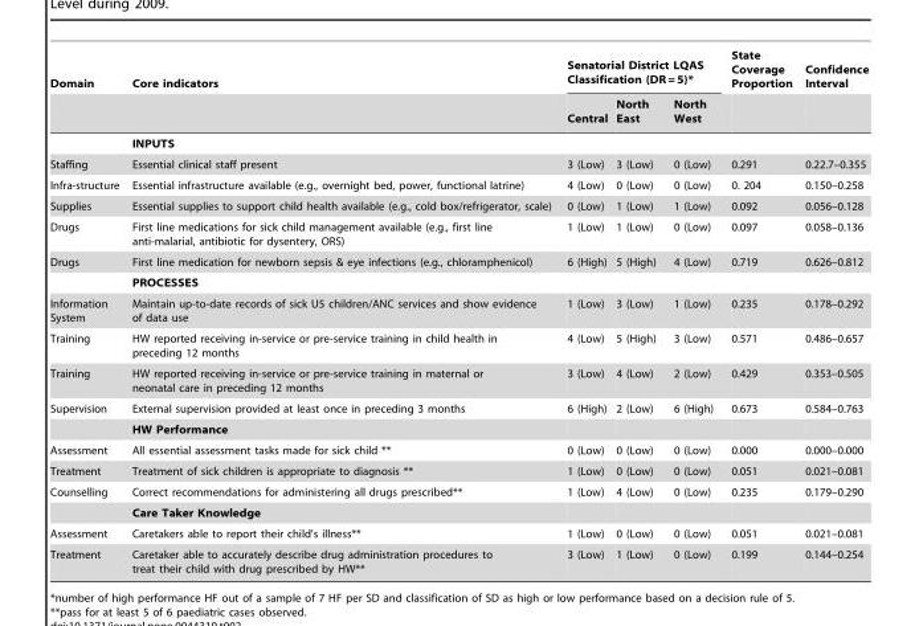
<table><thead><tr><td rowspan="2">Domain</td><td rowspan="2">Core indicators</td><td colspan="3">Senatorial District LQAS Classification (DR = 5)*</td><td rowspan="2">State Coverage Proportion</td><td rowspan="2">Confidence Interval</td></tr><tr><td>Central</td><td>North East</td><td>North West</td></tr></thead><tbody><tr><td></td><td>INPUTS</td><td></td><td></td><td></td><td></td><td></td></tr><tr><td>Staffing</td><td>Essential clinical staff present</td><td>3 (Low)</td><td>3 (Low)</td><td>0 (Low)</td><td>0.291</td><td>0.22.7–0.355</td></tr><tr><td>Infra-structure</td><td>Essential infrastructure available (e.g., overnight bed, power, functional latrine)</td><td>4 (Low)</td><td>0 (Low)</td><td>0 (Low)</td><td>0. 204</td><td>0.150–0.258</td></tr><tr><td>Supplies</td><td>Essential supplies to support child health available (e.g., cold box/refrigerator, scale)</td><td>0 (Low)</td><td>1 (Low)</td><td>1 (Low)</td><td>0.092</td><td>0.056–0.128</td></tr><tr><td>Drugs</td><td>First line medications for sick child management available (e.g., first line anti-malarial, antibiotic for dysentery, ORS)</td><td>1 (Low)</td><td>1 (Low)</td><td>0 (Low)</td><td>0.097</td><td>0.058–0.136</td></tr><tr><td rowspan="2">Drugs</td><td>First line medication for newborn sepsis &amp; eye infections (e.g., chloramphenicol)</td><td>6 (High)</td><td>5 (High)</td><td>4 (Low)</td><td>0.719</td><td>0.626–0.812</td></tr><tr><td>PROCESSES</td><td></td><td></td><td></td><td></td><td></td></tr><tr><td>Information System</td><td>Maintain up-to-date records of sick U5 children/ANC services and show evidence of data use</td><td>1 (Low)</td><td>3 (Low)</td><td>1 (Low)</td><td>0.235</td><td>0.178–0.292</td></tr><tr><td>Training</td><td>HW reported receiving in-service or pre-service training in child health in preceding 12 months</td><td>4 (Low)</td><td>5 (High)</td><td>3 (Low)</td><td>0.571</td><td>0.486–0.657</td></tr><tr><td>Training</td><td>HW reported receiving in-service or pre-service training in maternal or neonatal care in preceding 12 months</td><td>3 (Low)</td><td>4 (Low)</td><td>2 (Low)</td><td>0.429</td><td>0.353–0.505</td></tr><tr><td rowspan="2">Supervision</td><td>External supervision provided at least once in preceding 3 months</td><td>6 (High)</td><td>2 (Low)</td><td>6 (High)</td><td>0.673</td><td>0.584–0.763</td></tr><tr><td>HW Performance</td><td></td><td></td><td></td><td></td><td></td></tr><tr><td>Assessment</td><td>All essential assessment tasks made for sick child **</td><td>0 (Low)</td><td>0 (Low)</td><td>0 (Low)</td><td>0.000</td><td>0.000–0.000</td></tr><tr><td>Treatment</td><td>Treatment of sick children is appropriate to diagnosis **</td><td>1 (Low)</td><td>0 (Low)</td><td>0 (Low)</td><td>0.051</td><td>0.021–0.081</td></tr><tr><td rowspan="2">Counselling</td><td>Correct recommendations for administering all drugs prescribed**</td><td>1 (Low)</td><td>4 (Low)</td><td>0 (Low)</td><td>0.235</td><td>0.179–0.290</td></tr><tr><td>Care Taker Knowledge</td><td></td><td></td><td></td><td></td><td></td></tr><tr><td>Assessment</td><td>Caretakers able to report their child’s illness**</td><td>1 (Low)</td><td>0 (Low)</td><td>0 (Low)</td><td>0.051</td><td>0.021–0.081</td></tr><tr><td>Treatment</td><td>Caretaker able to accurately describe drug administration procedures to treat their child with drug prescribed by HW**</td><td>3 (Low)</td><td>1 (Low)</td><td>0 (Low)</td><td>0.199</td><td>0.144–0.254</td></tr></tbody></table>